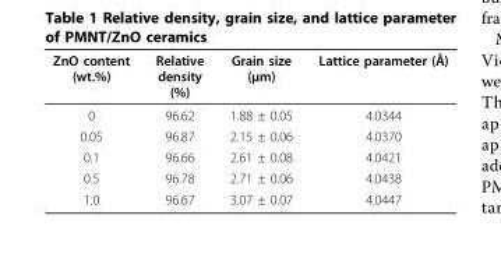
<table><thead><tr><td>ZnO content (wt.%)</td><td>Relative density (%)</td><td>Grain size (μm)</td><td>Lattice parameter (Å)</td></tr></thead><tbody><tr><td>0</td><td>96.62</td><td>1.88 ± 0.05</td><td>4.0344</td></tr><tr><td>0.05</td><td>96.87</td><td>2.15 ± 0.06</td><td>4.0370</td></tr><tr><td>0.1</td><td>96.66</td><td>2.61 ± 0.08</td><td>4.0421</td></tr><tr><td>0.5</td><td>96.78</td><td>2.71 ± 0.06</td><td>4.0438</td></tr><tr><td>1.0</td><td>96.67</td><td>3.07 ± 0.07</td><td>4.0447</td></tr></tbody></table>